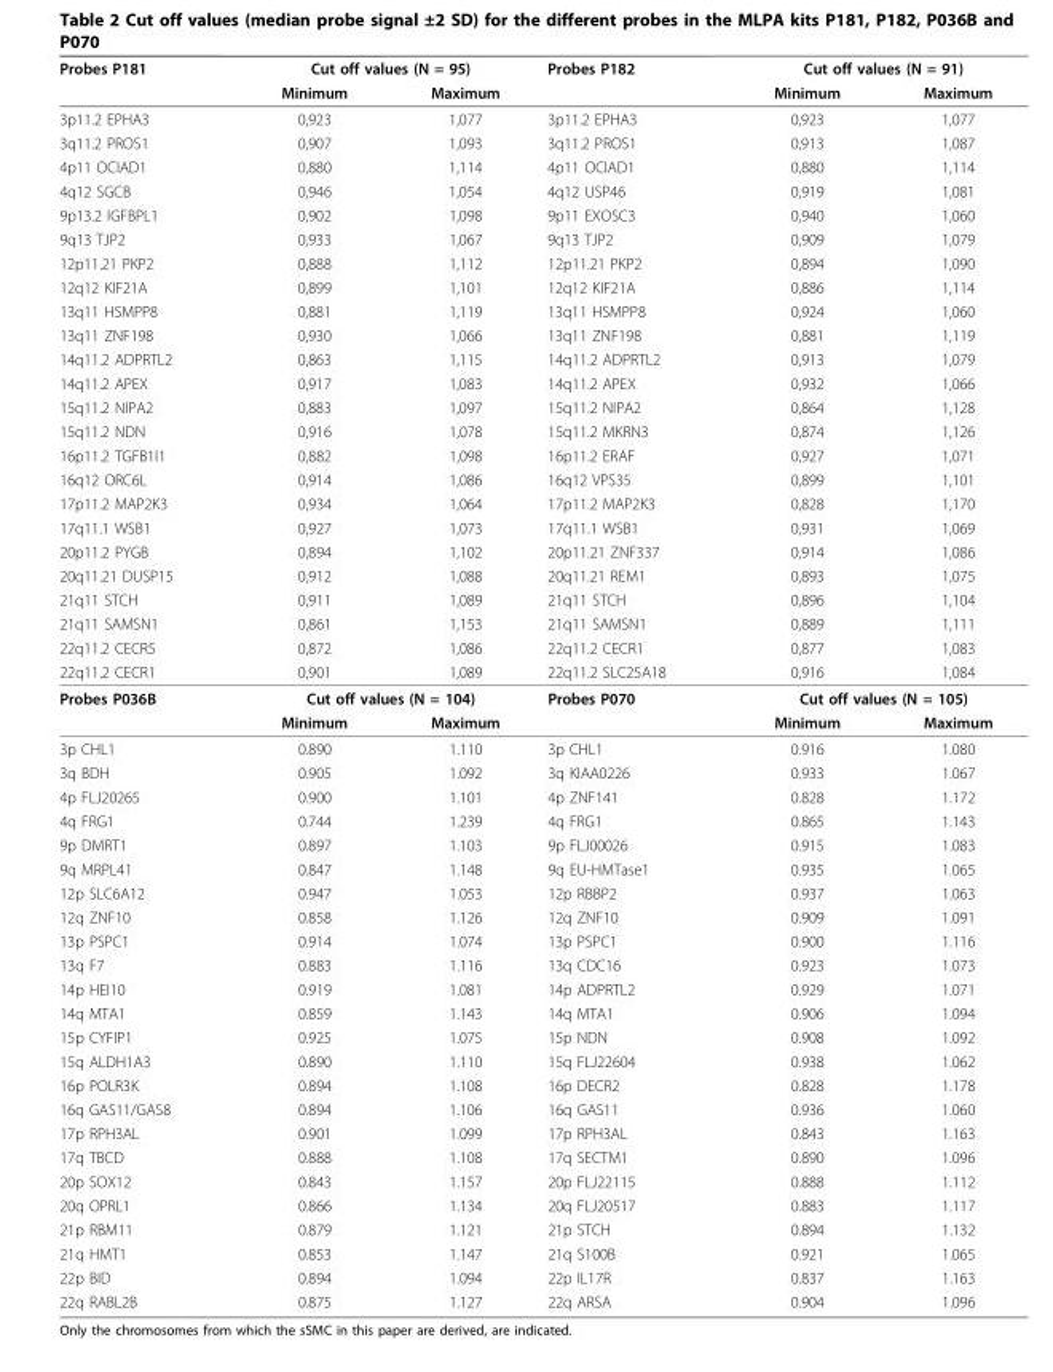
<table><thead><tr><td rowspan="2">Probes P181</td><td colspan="2">Cut off values (N = 95)</td><td rowspan="2">Probes P182</td><td colspan="2">Cut off values (N = 91)</td></tr><tr><td>Minimum</td><td>Maximum</td><td>Minimum</td><td>Maximum</td></tr></thead><tbody><tr><td>3p11.2 EPHA3</td><td>0,923</td><td>1,077</td><td>3p11.2 EPHA3</td><td>0,923</td><td>1,077</td></tr><tr><td>3q11.2 PROS1</td><td>0,907</td><td>1,093</td><td>3q11.2 PROS1</td><td>0,913</td><td>1,087</td></tr><tr><td>4p11 OCIAD1</td><td>0,880</td><td>1,114</td><td>4p11 OCIAD1</td><td>0,880</td><td>1,114</td></tr><tr><td>4q12 SGCB</td><td>0,946</td><td>1,054</td><td>4q12 USP46</td><td>0,919</td><td>1,081</td></tr><tr><td>9p13.2 IGFBPL1</td><td>0,902</td><td>1,098</td><td>9p11 EXOSC3</td><td>0,940</td><td>1,060</td></tr><tr><td>9q13 TJP2</td><td>0,933</td><td>1,067</td><td>9q13 TJP2</td><td>0,909</td><td>1,079</td></tr><tr><td>12p11.21 PKP2</td><td>0,888</td><td>1,112</td><td>12p11.21 PKP2</td><td>0,894</td><td>1,090</td></tr><tr><td>12q12 KIF21A</td><td>0,899</td><td>1,101</td><td>12q12 KIF21A</td><td>0,886</td><td>1,114</td></tr><tr><td>13q11 HSMPP8</td><td>0,881</td><td>1,119</td><td>13q11 HSMPP8</td><td>0,924</td><td>1,060</td></tr><tr><td>13q11 ZNF198</td><td>0,930</td><td>1,066</td><td>13q11 ZNF198</td><td>0,881</td><td>1,119</td></tr><tr><td>14q11.2 ADPRTL2</td><td>0,863</td><td>1,115</td><td>14q11.2 ADPRTL2</td><td>0,913</td><td>1,079</td></tr><tr><td>14q11.2 APEX</td><td>0,917</td><td>1,083</td><td>14q11.2 APEX</td><td>0,932</td><td>1,066</td></tr><tr><td>15q11.2 NIPA2</td><td>0,883</td><td>1,097</td><td>15q11.2 NIPA2</td><td>0,864</td><td>1,128</td></tr><tr><td>15q11.2 NDN</td><td>0,916</td><td>1,078</td><td>15q11.2 MKRN3</td><td>0,874</td><td>1,126</td></tr><tr><td>16p11.2 TGFB1I1</td><td>0,882</td><td>1,098</td><td>16p11.2 ERAF</td><td>0,927</td><td>1,071</td></tr><tr><td>16q12 ORC6L</td><td>0,914</td><td>1,086</td><td>16q12 VPS35</td><td>0,899</td><td>1,101</td></tr><tr><td>17p11.2 MAP2K3</td><td>0,934</td><td>1,064</td><td>17p11.2 MAP2K3</td><td>0,828</td><td>1,170</td></tr><tr><td>17q11.1 WSB1</td><td>0,927</td><td>1,073</td><td>17q11.1 WSB1</td><td>0,931</td><td>1,069</td></tr><tr><td>20p11.2 PYGB</td><td>0,894</td><td>1,102</td><td>20p11.21 ZNF337</td><td>0,914</td><td>1,086</td></tr><tr><td>20q11.21 DUSP15</td><td>0,912</td><td>1,088</td><td>20q11.21 REM1</td><td>0,893</td><td>1,075</td></tr><tr><td>21q11 STCH</td><td>0,911</td><td>1,089</td><td>21q11 STCH</td><td>0,896</td><td>1,104</td></tr><tr><td>21q11 SAMSN1</td><td>0,861</td><td>1,153</td><td>21q11 SAMSN1</td><td>0,889</td><td>1,111</td></tr><tr><td>22q11.2 CECR5</td><td>0,872</td><td>1,086</td><td>22q11.2 CECR1</td><td>0,877</td><td>1,083</td></tr><tr><td>22q11.2 CECR1</td><td>0,901</td><td>1,089</td><td>22q11.2 SLC25A18</td><td>0,916</td><td>1,084</td></tr><tr><td rowspan="2">Probes P036B</td><td colspan="2">Cut off values (N = 104)</td><td>Probes P070</td><td colspan="2">Cut off values (N = 105)</td></tr><tr><td>Minimum</td><td>Maximum</td><td></td><td>Minimum</td><td>Maximum</td></tr><tr><td>3p CHL1</td><td>0.890</td><td>1.110</td><td>3p CHL1</td><td>0.916</td><td>1.080</td></tr><tr><td>3q BDH</td><td>0.905</td><td>1.092</td><td>3q KIAA0226</td><td>0.933</td><td>1.067</td></tr><tr><td>4p FLJ20265</td><td>0.900</td><td>1.101</td><td>4p ZNF141</td><td>0.828</td><td>1.172</td></tr><tr><td>4q FRG1</td><td>0.744</td><td>1.239</td><td>4q FRG1</td><td>0.865</td><td>1.143</td></tr><tr><td>9p DMRT1</td><td>0.897</td><td>1.103</td><td>9p FLJ00026</td><td>0.915</td><td>1.083</td></tr><tr><td>9q MRPL41</td><td>0.847</td><td>1.148</td><td>9q EU-HMTase1</td><td>0.935</td><td>1.065</td></tr><tr><td>12p SLC6A12</td><td>0.947</td><td>1.053</td><td>12p RBBP2</td><td>0.937</td><td>1.063</td></tr><tr><td>12q ZNF10</td><td>0.858</td><td>1.126</td><td>12q ZNF10</td><td>0.909</td><td>1.091</td></tr><tr><td>13p PSPC1</td><td>0.914</td><td>1.074</td><td>13p PSPC1</td><td>0.900</td><td>1.116</td></tr><tr><td>13q F7</td><td>0.883</td><td>1.116</td><td>13q CDC16</td><td>0.923</td><td>1.073</td></tr><tr><td>14p HEI10</td><td>0.919</td><td>1.081</td><td>14p ADPRTL2</td><td>0.929</td><td>1.071</td></tr><tr><td>14q MTA1</td><td>0.859</td><td>1.143</td><td>14q MTA1</td><td>0.906</td><td>1.094</td></tr><tr><td>15p CYFIP1</td><td>0.925</td><td>1.075</td><td>15p NDN</td><td>0.908</td><td>1.092</td></tr><tr><td>15q ALDH1A3</td><td>0.890</td><td>1.110</td><td>15q FLJ22604</td><td>0.938</td><td>1.062</td></tr><tr><td>16p POLR3K</td><td>0.894</td><td>1.108</td><td>16p DECR2</td><td>0.828</td><td>1.178</td></tr><tr><td>16q GAS11/GAS8</td><td>0.894</td><td>1.106</td><td>16q GAS11</td><td>0.936</td><td>1.060</td></tr><tr><td>17p RPH3AL</td><td>0.901</td><td>1.099</td><td>17p RPH3AL</td><td>0.843</td><td>1.163</td></tr><tr><td>17q TBCD</td><td>0.888</td><td>1.108</td><td>17q SECTM1</td><td>0.890</td><td>1.096</td></tr><tr><td>20p SOX12</td><td>0.843</td><td>1.157</td><td>20p FLJ22115</td><td>0.888</td><td>1.112</td></tr><tr><td>20q OPRL1</td><td>0.866</td><td>1.134</td><td>20q FLJ20517</td><td>0.883</td><td>1.117</td></tr><tr><td>21p RBM11</td><td>0.879</td><td>1.121</td><td>21p STCH</td><td>0.894</td><td>1.132</td></tr><tr><td>21q HMT1</td><td>0.853</td><td>1.147</td><td>21q S100B</td><td>0.921</td><td>1.065</td></tr><tr><td>22p BID</td><td>0.894</td><td>1.094</td><td>22p IL17R</td><td>0.837</td><td>1.163</td></tr><tr><td>22q RABL2B</td><td>0.875</td><td>1.127</td><td>22q ARSA</td><td>0.904</td><td>1.096</td></tr></tbody></table>